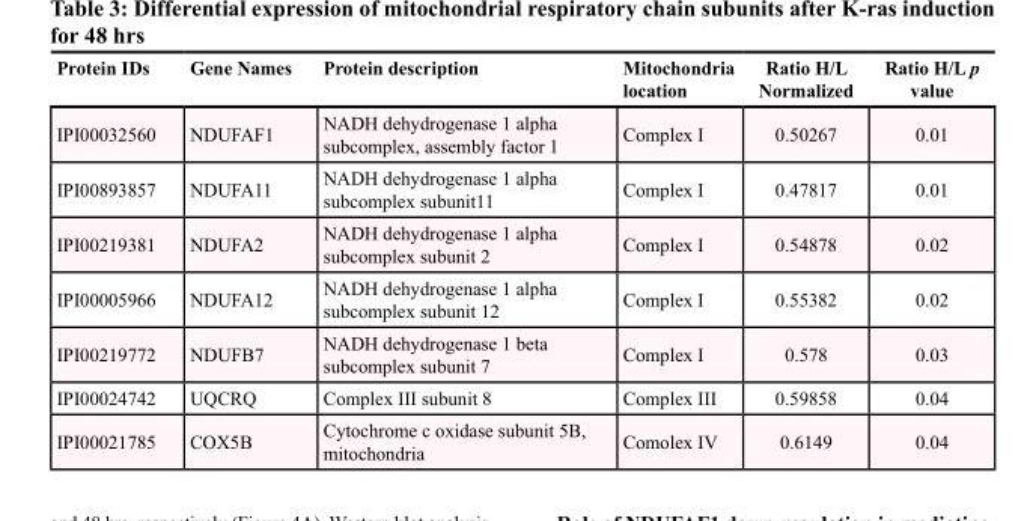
<table><thead><tr><td>Protein IDs</td><td>Gene Names</td><td>Protein description</td><td>Mitochondria location</td><td>Ratio H/L Normalized</td><td>Ratio H/L p value</td></tr></thead><tbody><tr><td>IPI00032560</td><td>NDUFAF1</td><td>NADH dehydrogenase 1 alpha subcomplex, assembly factor 1</td><td>Complex I</td><td>0.50267</td><td>0.01</td></tr><tr><td>IPI00893857</td><td>NDUFA11</td><td>NADH dehydrogenase 1 alpha subcomplex subunit11</td><td>Complex I</td><td>0.47817</td><td>0.01</td></tr><tr><td>IPI00219381</td><td>NDUFA2</td><td>NADH dehydrogenase 1 alpha subcomplex subunit 2</td><td>Complex I</td><td>0.54878</td><td>0.02</td></tr><tr><td>IPI00005966</td><td>NDUFA12</td><td>NADH dehydrogenase 1 alpha subcomplex subunit 12</td><td>Complex I</td><td>0.55382</td><td>0.02</td></tr><tr><td>IPI00219772</td><td>NDUFB7</td><td>NADH dehydrogenase 1 beta subcomplex subunit 7</td><td>Complex I</td><td>0.578</td><td>0.03</td></tr><tr><td>IPI00024742</td><td>UQCRQ</td><td>Complex III subunit 8</td><td>Complex III</td><td>0.59858</td><td>0.04</td></tr><tr><td>IPI00021785</td><td>COX5B</td><td>Cytochrome c oxidase subunit 5B, mitochondria</td><td>Comolex IV</td><td>0.6149</td><td>0.04</td></tr></tbody></table>